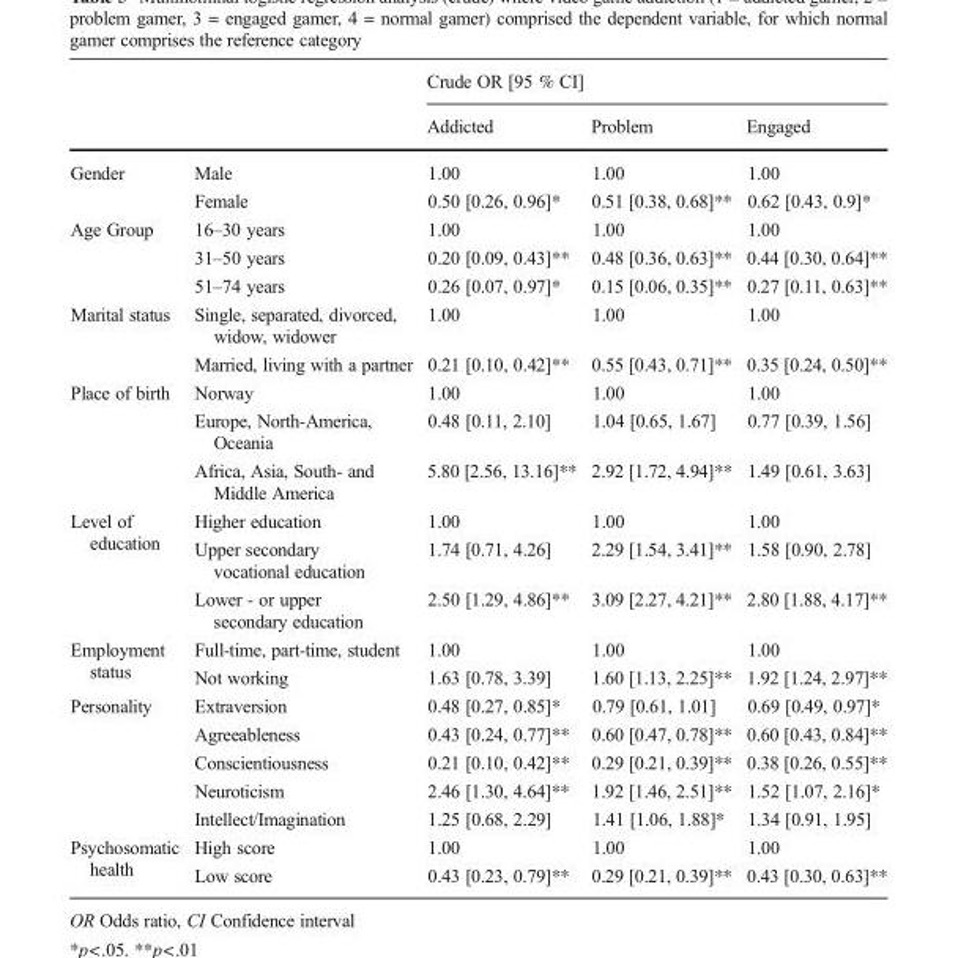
<table><thead><tr><td rowspan="2"></td><td rowspan="2"></td><td colspan="3">Crude OR [95 % CI]</td></tr><tr><td>Addicted</td><td>Problem</td><td>Engaged</td></tr></thead><tbody><tr><td rowspan="2">Gender</td><td>Male</td><td>1.00</td><td>1.00</td><td>1.00</td></tr><tr><td>Female</td><td>0.50 [0.26, 0.96]*</td><td>0.51 [0.38, 0.68]**</td><td>0.62 [0.43, 0.9]*</td></tr><tr><td rowspan="3">Age Group</td><td>16–30 years</td><td>1.00</td><td>1.00</td><td>1.00</td></tr><tr><td>31–50 years</td><td>0.20 [0.09, 0.43]**</td><td>0.48 [0.36, 0.63]**</td><td>0.44 [0.30, 0.64]**</td></tr><tr><td>51–74 years</td><td>0.26 [0.07, 0.97]*</td><td>0.15 [0.06, 0.35]**</td><td>0.27 [0.11, 0.63]**</td></tr><tr><td rowspan="2">Marital status</td><td>Single, separated, divorced, widow, widower</td><td>1.00</td><td>1.00</td><td>1.00</td></tr><tr><td>Married, living with a partner</td><td>0.21 [0.10, 0.42]**</td><td>0.55 [0.43, 0.71]**</td><td>0.35 [0.24, 0.50]**</td></tr><tr><td rowspan="3">Place of birth</td><td>Norway</td><td>1.00</td><td>1.00</td><td>1.00</td></tr><tr><td>Europe, North-America, Oceania</td><td>0.48 [0.11, 2.10]</td><td>1.04 [0.65, 1.67]</td><td>0.77 [0.39, 1.56]</td></tr><tr><td>Africa, Asia, South- and Middle America</td><td>5.80 [2.56, 13.16]**</td><td>2.92 [1.72, 4.94]**</td><td>1.49 [0.61, 3.63]</td></tr><tr><td rowspan="3">Level of education</td><td>Higher education</td><td>1.00</td><td>1.00</td><td>1.00</td></tr><tr><td>Upper secondary vocational education</td><td>1.74 [0.71, 4.26]</td><td>2.29 [1.54, 3.41]**</td><td>1.58 [0.90, 2.78]</td></tr><tr><td>Lower - or upper secondary education</td><td>2.50 [1.29, 4.86]**</td><td>3.09 [2.27, 4.21]**</td><td>2.80 [1.88, 4.17]**</td></tr><tr><td rowspan="2">Employment status</td><td>Full-time, part-time, student</td><td>1.00</td><td>1.00</td><td>1.00</td></tr><tr><td>Not working</td><td>1.63 [0.78, 3.39]</td><td>1.60 [1.13, 2.25]**</td><td>1.92 [1.24, 2.97]**</td></tr><tr><td rowspan="5">Personality</td><td>Extraversion</td><td>0.48 [0.27, 0.85]*</td><td>0.79 [0.61, 1.01]</td><td>0.69 [0.49, 0.97]*</td></tr><tr><td>Agreeableness</td><td>0.43 [0.24, 0.77]**</td><td>0.60 [0.47, 0.78]**</td><td>0.60 [0.43, 0.84]**</td></tr><tr><td>Conscientiousness</td><td>0.21 [0.10, 0.42]**</td><td>0.29 [0.21, 0.39]**</td><td>0.38 [0.26, 0.55]**</td></tr><tr><td>Neuroticism</td><td>2.46 [1.30, 4.64]**</td><td>1.92 [1.46, 2.51]**</td><td>1.52 [1.07, 2.16]*</td></tr><tr><td>Intellect/Imagination</td><td>1.25 [0.68, 2.29]</td><td>1.41 [1.06, 1.88]*</td><td>1.34 [0.91, 1.95]</td></tr><tr><td rowspan="2">Psychosomatic health</td><td>High score</td><td>1.00</td><td>1.00</td><td>1.00</td></tr><tr><td>Low score</td><td>0.43 [0.23, 0.79]**</td><td>0.29 [0.21, 0.39]**</td><td>0.43 [0.30, 0.63]**</td></tr></tbody></table>